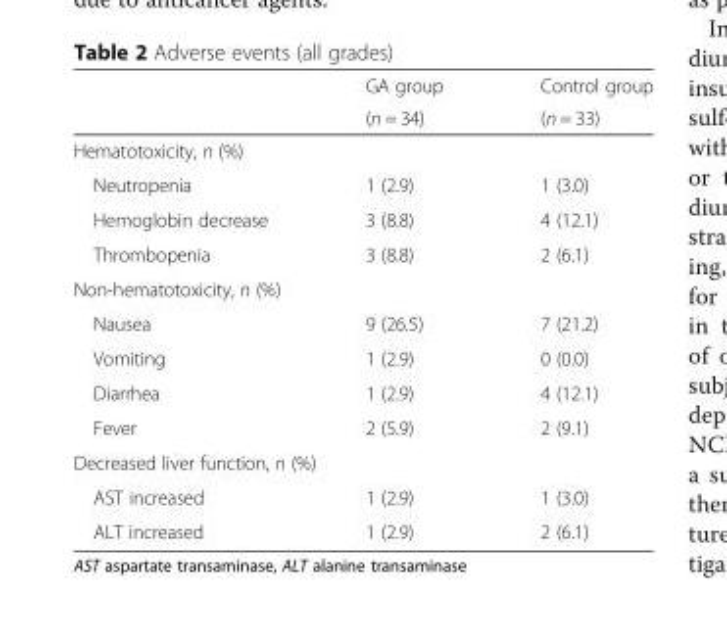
<table><thead><tr><td rowspan="2"></td><td rowspan="2">GA group (n = 34)</td><td rowspan="2">Control group (n = 33)</td></tr><tr></tr></thead><tbody><tr><td colspan="3">Hematotoxicity, n (%)</td></tr><tr><td>Neutropenia</td><td>1 (2.9)</td><td>1 (3.0)</td></tr><tr><td>Hemoglobin decrease</td><td>3 (8.8)</td><td>4 (12.1)</td></tr><tr><td>Thrombopenia</td><td>3 (8.8)</td><td>2 (6.1)</td></tr><tr><td colspan="3">Non-hematotoxicity, n (%)</td></tr><tr><td>Nausea</td><td>9 (26.5)</td><td>7 (21.2)</td></tr><tr><td>Vomiting</td><td>1 (2.9)</td><td>0 (0.0)</td></tr><tr><td>Diarrhea</td><td>1 (2.9)</td><td>4 (12.1)</td></tr><tr><td>Fever</td><td>2 (5.9)</td><td>2 (9.1)</td></tr><tr><td colspan="3">Decreased liver function, n (%)</td></tr><tr><td>AST increased</td><td>1 (2.9)</td><td>1 (3.0)</td></tr><tr><td>ALT increased</td><td>1 (2.9)</td><td>2 (6.1)</td></tr></tbody></table>